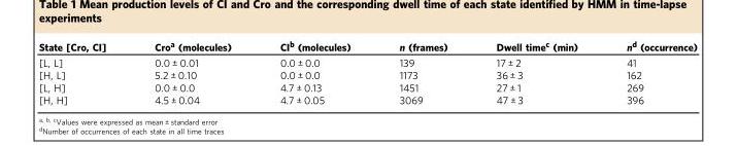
<table><thead><tr><td>State [Cro, CI]</td><td>Cro<sup>a</sup> (molecules)</td><td>CI<sup>b</sup> (molecules)</td><td>n (frames)</td><td>Dwell time<sup>c</sup> (min)</td><td>n<sup>d</sup> (occurrence)</td></tr></thead><tbody><tr><td>[L, L]</td><td>0.0 ± 0.01</td><td>0.0 ± 0.0</td><td>139</td><td>17 ± 2</td><td>41</td></tr><tr><td>[H, L]</td><td>5.2 ± 0.10</td><td>0.0 ± 0.0</td><td>1173</td><td>36 ± 3</td><td>162</td></tr><tr><td>[L, H]</td><td>0.0 ± 0.0</td><td>4.7 ± 0.13</td><td>1451</td><td>27 ± 1</td><td>269</td></tr><tr><td>[H, H]</td><td>4.5 ± 0.04</td><td>4.7 ± 0.05</td><td>3069</td><td>47 ± 3</td><td>396</td></tr></tbody></table>